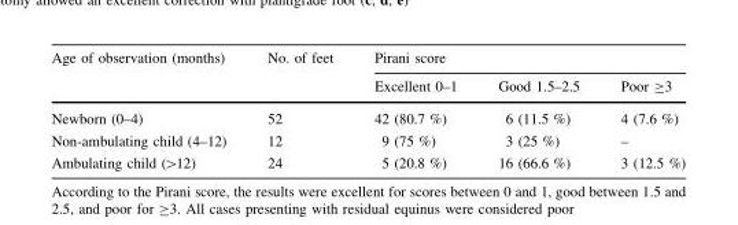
<table><thead><tr><td rowspan="2">Age of observation (months)</td><td rowspan="2">No. of feet</td><td colspan="3">Pirani score</td></tr><tr><td>Excellent 0–1</td><td>Good 1.5–2.5</td><td>Poor ≥3</td></tr></thead><tbody><tr><td>Newborn (0–4)</td><td>52</td><td>42 (80.7 %)</td><td>6 (11.5 %)</td><td>4 (7.6 %)</td></tr><tr><td>Non-ambulating child (4–12)</td><td>12</td><td>9 (75 %)</td><td>3 (25 %)</td><td>–</td></tr><tr><td>Ambulating child (&gt;12)</td><td>24</td><td>5 (20.8 %)</td><td>16 (66.6 %)</td><td>3 (12.5 %)</td></tr></tbody></table>